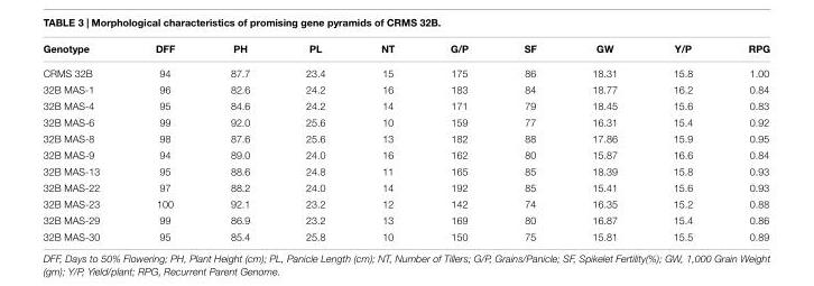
<table><thead><tr><td>Genotype</td><td>DFF</td><td>PH</td><td>PL</td><td>NT</td><td>G/P</td><td>SF</td><td>GW</td><td>Y/P</td><td>RPG</td></tr></thead><tbody><tr><td>CRMS 32B</td><td>94</td><td>87.7</td><td>23.4</td><td>15</td><td>175</td><td>86</td><td>18.31</td><td>15.8</td><td>1.00</td></tr><tr><td>32B MAS-1</td><td>96</td><td>82.6</td><td>24.2</td><td>16</td><td>183</td><td>84</td><td>18.77</td><td>16.2</td><td>0.84</td></tr><tr><td>32B MAS-4</td><td>95</td><td>84.6</td><td>24.2</td><td>14</td><td>171</td><td>79</td><td>18.45</td><td>15.6</td><td>0.83</td></tr><tr><td>32B MAS-6</td><td>99</td><td>92.0</td><td>25.6</td><td>10</td><td>159</td><td>77</td><td>16.31</td><td>15.4</td><td>0.92</td></tr><tr><td>32B MAS-8</td><td>98</td><td>87.6</td><td>25.6</td><td>13</td><td>182</td><td>88</td><td>17.86</td><td>15.9</td><td>0.95</td></tr><tr><td>32B MAS-9</td><td>94</td><td>89.0</td><td>24.0</td><td>16</td><td>162</td><td>80</td><td>15.87</td><td>16.6</td><td>0.84</td></tr><tr><td>32B MAS-13</td><td>95</td><td>88.6</td><td>24.8</td><td>11</td><td>165</td><td>85</td><td>18.39</td><td>15.8</td><td>0.93</td></tr><tr><td>32B MAS-22</td><td>97</td><td>88.2</td><td>24.0</td><td>14</td><td>192</td><td>85</td><td>15.41</td><td>15.6</td><td>0.93</td></tr><tr><td>32B MAS-23</td><td>100</td><td>92.1</td><td>23.2</td><td>12</td><td>142</td><td>74</td><td>16.35</td><td>15.2</td><td>0.88</td></tr><tr><td>32B MAS-29</td><td>99</td><td>86.9</td><td>23.2</td><td>13</td><td>169</td><td>80</td><td>16.87</td><td>15.4</td><td>0.86</td></tr><tr><td>32B MAS-30</td><td>95</td><td>85.4</td><td>25.8</td><td>10</td><td>150</td><td>75</td><td>15.81</td><td>15.5</td><td>0.89</td></tr></tbody></table>